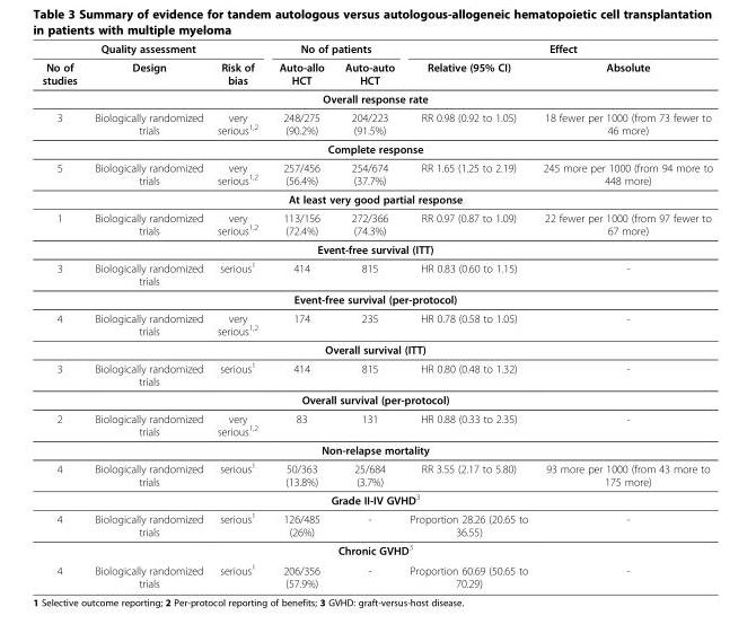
<table><thead><tr><td colspan="3">Quality assessment</td><td colspan="2">No of patients</td><td colspan="2">Effect</td></tr><tr><td>No of studies</td><td>Design</td><td>Risk of bias</td><td>Auto-allo HCT</td><td>Auto-auto HCT</td><td>Relative (95% CI)</td><td>Absolute</td></tr></thead><tbody><tr><td colspan="7">Overall response rate</td></tr><tr><td>3</td><td>Biologically randomized trials</td><td>very serious<sup>1,2</sup></td><td>248/275 (90.2%)</td><td>204/223 (91.5%)</td><td>RR 0.98 (0.92 to 1.05)</td><td>18 fewer per 1000 (from 73 fewer to 46 more)</td></tr><tr><td colspan="7">Complete response</td></tr><tr><td>5</td><td>Biologically randomized trials</td><td>very serious<sup>1,2</sup></td><td>257/456 (56.4%)</td><td>254/674 (37.7%)</td><td>RR 1.65 (1.25 to 2.19)</td><td>245 more per 1000 (from 94 more to 448 more)</td></tr><tr><td colspan="7">At least very good partial response</td></tr><tr><td>1</td><td>Biologically randomized trials</td><td>very serious<sup>1,2</sup></td><td>113/156 (72.4%)</td><td>272/366 (74.3%)</td><td>RR 0.97 (0.87 to 1.09)</td><td>22 fewer per 1000 (from 97 fewer to 67 more)</td></tr><tr><td colspan="7">Event-free survival (ITT)</td></tr><tr><td>3</td><td>Biologically randomized trials</td><td>serious<sup>1</sup></td><td>414</td><td>815</td><td>HR 0.83 (0.60 to 1.15)</td><td>-</td></tr><tr><td colspan="7">Event-free survival (per-protocol)</td></tr><tr><td>4</td><td>Biologically randomized trials</td><td>very serious<sup>1,2</sup></td><td>174</td><td>235</td><td>HR 0.78 (0.58 to 1.05)</td><td>-</td></tr><tr><td colspan="7">Overall survival (ITT)</td></tr><tr><td>3</td><td>Biologically randomized trials</td><td>serious<sup>1</sup></td><td>414</td><td>815</td><td>HR 0.80 (0.48 to 1.32)</td><td>-</td></tr><tr><td colspan="7">Overall survival (per-protocol)</td></tr><tr><td>2</td><td>Biologically randomized trials</td><td>very serious<sup>1,2</sup></td><td>83</td><td>131</td><td>HR 0.88 (0.33 to 2.35)</td><td>-</td></tr><tr><td colspan="7">Non-relapse mortality</td></tr><tr><td>4</td><td>Biologically randomized trials</td><td>serious<sup>1</sup></td><td>50/363 (13.8%)</td><td>25/684 (3.7%)</td><td>RR 3.55 (2.17 to 5.80)</td><td>93 more per 1000 (from 43 more to 175 more)</td></tr><tr><td colspan="7">Grade II-IV GVHD<sup>3</sup></td></tr><tr><td>4</td><td>Biologically randomized trials</td><td>serious<sup>1</sup></td><td>126/485 (26%)</td><td>-</td><td>Proportion 28.26 (20.65 to 36.55)</td><td>-</td></tr><tr><td colspan="7">Chronic GVHD<sup>3</sup></td></tr><tr><td>4</td><td>Biologically randomized trials</td><td>serious<sup>1</sup></td><td>206/356 (57.9%)</td><td>-</td><td>Proportion 60.69 (50.65 to 70.29)</td><td>-</td></tr></tbody></table>